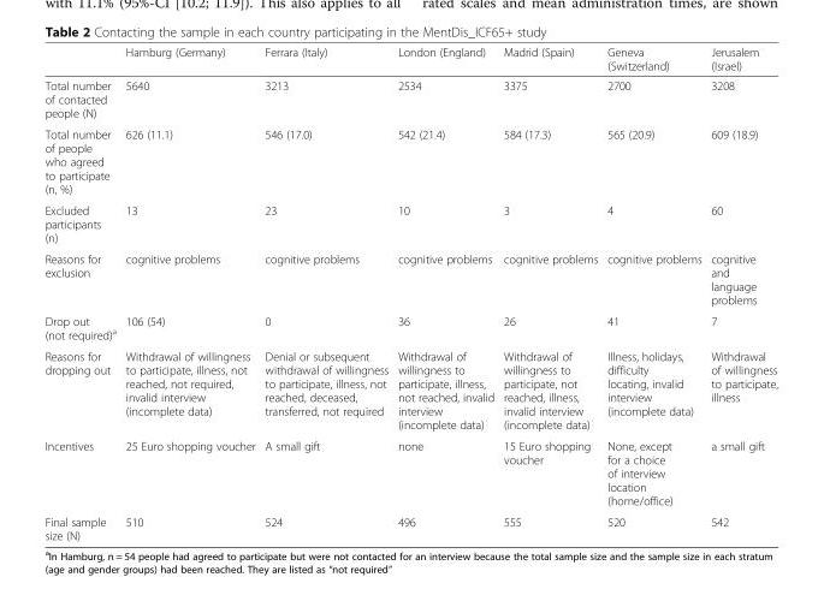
<table><thead><tr><td></td><td>Hamburg (Germany)</td><td>Ferrara (Italy)</td><td>London (England)</td><td>Madrid (Spain)</td><td>Geneva (Switzerland)</td><td>Jerusalem (Israel)</td></tr></thead><tbody><tr><td>Total number of contacted people (N)</td><td>5640</td><td>3213</td><td>2534</td><td>3375</td><td>2700</td><td>3208</td></tr><tr><td>Total number of people who agreed to participate (n, %)</td><td>626 (11.1)</td><td>546 (17.0)</td><td>542 (21.4)</td><td>584 (17.3)</td><td>565 (20.9)</td><td>609 (18.9)</td></tr><tr><td>Excluded participants (n)</td><td>13</td><td>23</td><td>10</td><td>3</td><td>4</td><td>60</td></tr><tr><td>Reasons for exclusion</td><td>cognitive problems</td><td>cognitive problems</td><td>cognitive problems</td><td>cognitive problems</td><td>cognitive problems</td><td>cognitive and language problems</td></tr><tr><td>Drop out (not required)<sup>a</sup></td><td>106 (54)</td><td>0</td><td>36</td><td>26</td><td>41</td><td>7</td></tr><tr><td>Reasons for dropping out</td><td>Withdrawal of willingness to participate, illness, not reached, not required, invalid interview (incomplete data)</td><td>Denial or subsequent withdrawal of willingness to participate, illness, not reached, deceased, transferred, not required</td><td>Withdrawal of willingness to participate, illness, not reached, invalid interview (incomplete data)</td><td>Withdrawal of willingness to participate, not reached, illness, invalid interview (incomplete data)</td><td>Illness, holidays, difficulty locating, invalid interview (incomplete data)</td><td>Withdrawal of willingness to participate, illness</td></tr><tr><td>Incentives</td><td>25 Euro shopping voucher</td><td>A small gift</td><td>none</td><td>15 Euro shopping voucher</td><td>None, except for a choice of interview location (home/office)</td><td>a small gift</td></tr><tr><td>Final sample size (N)</td><td>510</td><td>524</td><td>496</td><td>555</td><td>520</td><td>542</td></tr></tbody></table>